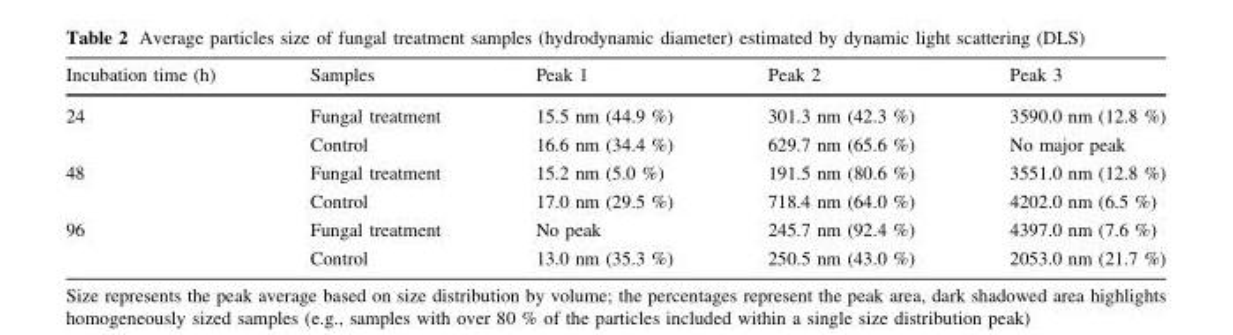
<table><thead><tr><td>Incubation time (h)</td><td>Samples</td><td>Peak 1</td><td>Peak 2</td><td>Peak 3</td></tr></thead><tbody><tr><td rowspan="2">24</td><td>Fungal treatment</td><td>15.5 nm (44.9 %)</td><td>301.3 nm (42.3 %)</td><td>3590.0 nm (12.8 %)</td></tr><tr><td>Control</td><td>16.6 nm (34.4 %)</td><td>629.7 nm (65.6 %)</td><td>No major peak</td></tr><tr><td rowspan="2">48</td><td>Fungal treatment</td><td>15.2 nm (5.0 %)</td><td>191.5 nm (80.6 %)</td><td>3551.0 nm (12.8 %)</td></tr><tr><td>Control</td><td>17.0 nm (29.5 %)</td><td>718.4 nm (64.0 %)</td><td>4202.0 nm (6.5 %)</td></tr><tr><td rowspan="2">96</td><td>Fungal treatment</td><td>No peak</td><td>245.7 nm (92.4 %)</td><td>4397.0 nm (7.6 %)</td></tr><tr><td>Control</td><td>13.0 nm (35.3 %)</td><td>250.5 nm (43.0 %)</td><td>2053.0 nm (21.7 %)</td></tr></tbody></table>